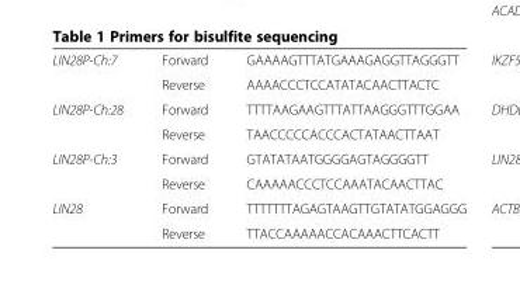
<table><tbody><tr><td rowspan="2">LIN28P-Ch:7</td><td>Forward</td><td>GAAAAGTTTATGAAAGAGGTTAGGGTT</td></tr><tr><td>Reverse</td><td>AAAACCCTCCATATACAACTTACTC</td></tr><tr><td rowspan="2">LIN28P-Ch:28</td><td>Forward</td><td>TTTTAAGAAGTTTATTAAGGGTTTGGAA</td></tr><tr><td>Reverse</td><td>TAACCCCCACCCACTATAACTTAAT</td></tr><tr><td rowspan="2">LIN28P-Ch:3</td><td>Forward</td><td>GTATATAATGGGGAGTAGGGGTT</td></tr><tr><td>Reverse</td><td>CAAAAACCCTCCAAATACAACTTAC</td></tr><tr><td rowspan="2">LIN28</td><td>Forward</td><td>TTTTTTTAGAGTAAGTTGTATATGGAGGG</td></tr><tr><td>Reverse</td><td>TTACCAAAAACCACAAACTTCACTT</td></tr></tbody></table>